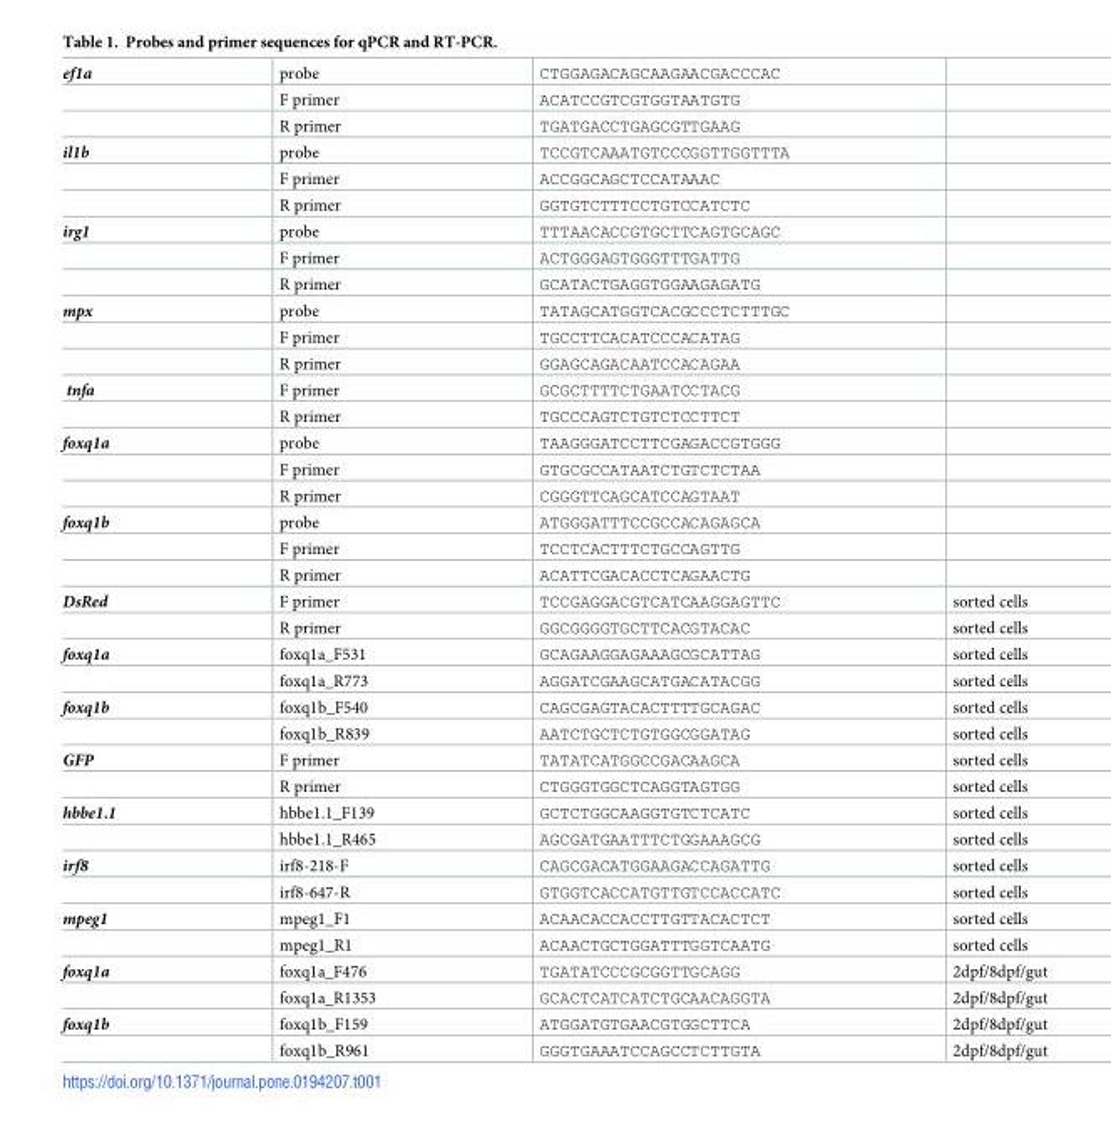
<table><tbody><tr><td rowspan="3">ef1a</td><td>probe</td><td>CTGGAGACAGCAAGAACGACCCAC</td><td></td></tr><tr><td>F primer</td><td>ACATCCGTCGTGGTAATGTG</td><td></td></tr><tr><td>R primer</td><td>TGATGACCTGAGCGTTGAAG</td><td></td></tr><tr><td rowspan="3">il1b</td><td>probe</td><td>TCCGTCAAATGTCCCGGTTGGTTTA</td><td></td></tr><tr><td>F primer</td><td>ACCGGCAGCTCCATAAAC</td><td></td></tr><tr><td>R primer</td><td>GGTGTCTTTCCTGTCCATCTC</td><td></td></tr><tr><td rowspan="3">irg1</td><td>probe</td><td>TTTAACACCGTGCTTCAGTGCAGC</td><td></td></tr><tr><td>F primer</td><td>ACTGGGAGTGGGTTTGATTG</td><td></td></tr><tr><td>R primer</td><td>GCATACTGAGGTGGAAGAGATG</td><td></td></tr><tr><td rowspan="3">mpx</td><td>probe</td><td>TATAGCATGGTCACGCCCTCTTTGC</td><td></td></tr><tr><td>F primer</td><td>TGCCTTCACATCCCACATAG</td><td></td></tr><tr><td>R primer</td><td>GGAGCAGACAATCCACAGAA</td><td></td></tr><tr><td rowspan="2">tnfa</td><td>F primer</td><td>GCGCTTTTCTGAATCCTACG</td><td></td></tr><tr><td>R primer</td><td>TGCCCAGTCTGTCTCCTTCT</td><td></td></tr><tr><td rowspan="3">foxq1a</td><td>probe</td><td>TAAGGGATCCTTCGAGACCGTGGG</td><td></td></tr><tr><td>F primer</td><td>GTGCGCCATAATCTGTCTCTAA</td><td></td></tr><tr><td>R primer</td><td>CGGGTTCAGCATCCAGTAAT</td><td></td></tr><tr><td rowspan="3">foxq1b</td><td>probe</td><td>ATGGGATTTCCGCCACAGAGCA</td><td></td></tr><tr><td>F primer</td><td>TCCTCACTTTCTGCCAGTTG</td><td></td></tr><tr><td>R primer</td><td>ACATTCGACACCTCAGAACTG</td><td></td></tr><tr><td rowspan="2">DsRed</td><td>F primer</td><td>TCCGAGGACGTCATCAAGGAGTTC</td><td>sorted cells</td></tr><tr><td>R primer</td><td>GGCGGGGTGCTTCACGTACAC</td><td>sorted cells</td></tr><tr><td rowspan="2">foxq1a</td><td>foxq1a_F531</td><td>GCAGAAGGAGAAAGCGCATTAG</td><td>sorted cells</td></tr><tr><td>foxq1a_R773</td><td>AGGATCGAAGCATGACATACGG</td><td>sorted cells</td></tr><tr><td rowspan="2">foxq1b</td><td>foxq1b_F540</td><td>CAGCGAGTACACTTTTGCAGAC</td><td>sorted cells</td></tr><tr><td>foxq1b_R839</td><td>AATCTGCTCTGTGGCGGATAG</td><td>sorted cells</td></tr><tr><td rowspan="2">GFP</td><td>F primer</td><td>TATATCATGGCCGACAAGCA</td><td>sorted cells</td></tr><tr><td>R primer</td><td>CTGGGTGGCTCAGGTAGTGG</td><td>sorted cells</td></tr><tr><td rowspan="2">hbbe1.1</td><td>hbbe1.1_F139</td><td>GCTCTGGCAAGGTGTCTCATC</td><td>sorted cells</td></tr><tr><td>hbbe1.1_R465</td><td>AGCGATGAATTTCTGGAAAGCG</td><td>sorted cells</td></tr><tr><td rowspan="2">irf8</td><td>irf8-218-F</td><td>CAGCGACATGGAAGACCAGATTG</td><td>sorted cells</td></tr><tr><td>irf8-647-R</td><td>GTGGTCACCATGTTGTCCACCATC</td><td>sorted cells</td></tr><tr><td rowspan="2">mpeg1</td><td>mpeg1_F1</td><td>ACAACACCACCTTGTTACACTCT</td><td>sorted cells</td></tr><tr><td>mpeg1_R1</td><td>ACAACTGCTGGATTTGGTCAATG</td><td>sorted cells</td></tr><tr><td rowspan="2">foxq1a</td><td>foxq1a_F476</td><td>TGATATCCCGCGGTTGCAGG</td><td>2dpf/8dpf/gut</td></tr><tr><td>foxq1a_R1353</td><td>GCACTCATCATCTGCAACAGGTA</td><td>2dpf/8dpf/gut</td></tr><tr><td rowspan="2">foxq1b</td><td>foxq1b_F159</td><td>ATGGATGTGAACGTGGCTTCA</td><td>2dpf/8dpf/gut</td></tr><tr><td>foxq1b_R961</td><td>GGGTGAAATCCAGCCTCTTGTA</td><td>2dpf/8dpf/gut</td></tr></tbody></table>